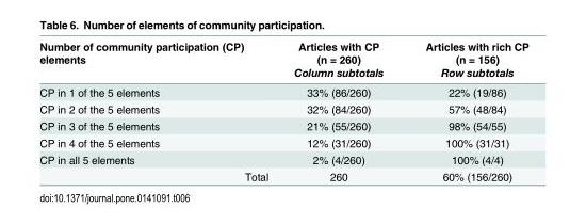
<table><thead><tr><td rowspan="2">Number of community participation (CP) elements</td><td rowspan="2">Articles with CP (n = 260) Column subtotals</td><td rowspan="2">Articles with rich CP (n = 156) Row subtotals</td></tr><tr></tr></thead><tbody><tr><td>CP in 1 of the 5 elements</td><td>33% (86/260)</td><td>22% (19/86)</td></tr><tr><td>CP in 2 of the 5 elements</td><td>32% (84/260)</td><td>57% (48/84)</td></tr><tr><td>CP in 3 of the 5 elements</td><td>21% (55/260)</td><td>98% (54/55)</td></tr><tr><td>CP in 4 of the 5 elements</td><td>12% (31/260)</td><td>100% (31/31)</td></tr><tr><td>CP in all 5 elements</td><td>2% (4/260)</td><td>100% (4/4)</td></tr><tr><td>Total</td><td>260</td><td>60% (156/260)</td></tr></tbody></table>